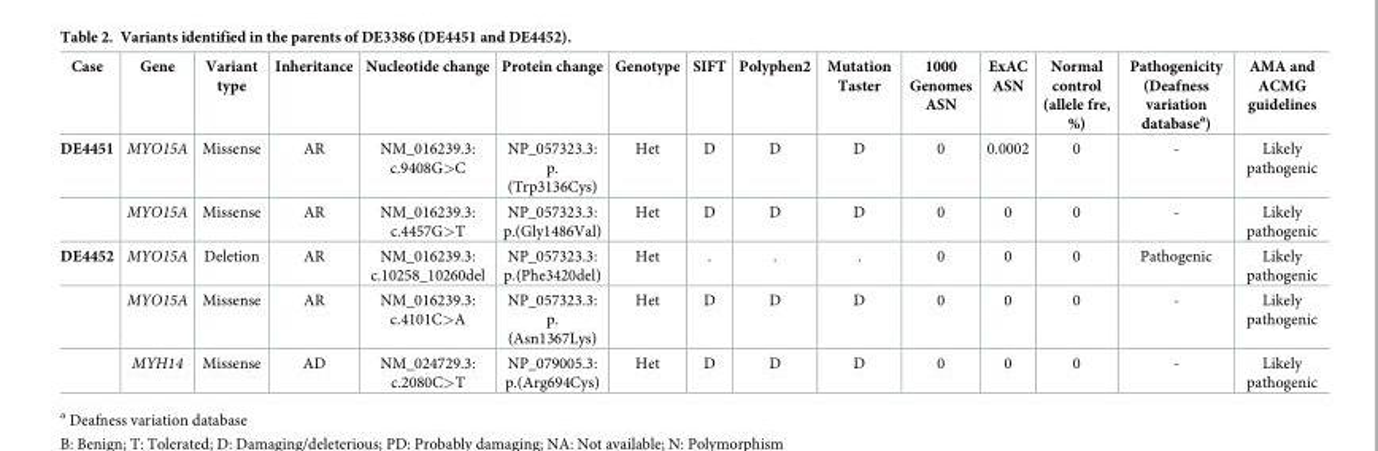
<table><thead><tr><td>Case</td><td>Gene</td><td>Variant type</td><td>Inheritance</td><td>Nucleotide change</td><td>Protein change</td><td>Genotype</td><td>SIFT</td><td>Polyphen2</td><td>Mutation Taster</td><td>1000 Genomes ASN</td><td>ExAC ASN</td><td>Normal control (allele fre, %)</td><td>Pathogenicity (Deafness variation database<sup>a</sup>)</td><td>AMA and ACMG guidelines</td></tr></thead><tbody><tr><td rowspan="2">DE4451</td><td>MYO15A</td><td>Missense</td><td>AR</td><td>NM_016239.3: c.9408G&gt;C</td><td>NP_057323.3: p. (Trp3136Cys)</td><td>Het</td><td>D</td><td>D</td><td>D</td><td>0</td><td>0.0002</td><td>0</td><td>-</td><td>Likely pathogenic</td></tr><tr><td>MYO15A</td><td>Missense</td><td>AR</td><td>NM_016239.3: c.4457G&gt;T</td><td>NP_057323.3: p.(Gly1486Val)</td><td>Het</td><td>D</td><td>D</td><td>D</td><td>0</td><td>0</td><td>0</td><td>-</td><td>Likely pathogenic</td></tr><tr><td rowspan="3">DE4452</td><td>MYO15A</td><td>Deletion</td><td>AR</td><td>NM_016239.3: c.10258_10260del</td><td>NP_057323.3: p.(Phe3420del)</td><td>Het</td><td>.</td><td>.</td><td>.</td><td>0</td><td>0</td><td>0</td><td>Pathogenic</td><td>Likely pathogenic</td></tr><tr><td>MYO15A</td><td>Missense</td><td>AR</td><td>NM_016239.3: c.4101C&gt;A</td><td>NP_057323.3: p. (Asn1367Lys)</td><td>Het</td><td>D</td><td>D</td><td>D</td><td>0</td><td>0</td><td>0</td><td>-</td><td>Likely pathogenic</td></tr><tr><td>MYH14</td><td>Missense</td><td>AD</td><td>NM_024729.3: c.2080C&gt;T</td><td>NP_079005.3: p.(Arg694Cys)</td><td>Het</td><td>D</td><td>D</td><td>D</td><td>0</td><td>0</td><td>0</td><td>-</td><td>Likely pathogenic</td></tr></tbody></table>